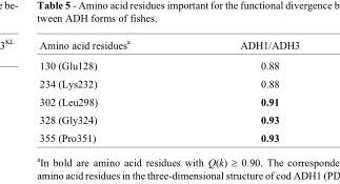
<table><thead><tr><td>Amino acid residues<sup>a</sup></td><td>ADH1/ADH3</td></tr></thead><tbody><tr><td>130 (Glu128)</td><td>0.88</td></tr><tr><td>234 (Lys232)</td><td>0.88</td></tr><tr><td>302 (Leu298)</td><td>0.91</td></tr><tr><td>328 (Gly324)</td><td>0.93</td></tr><tr><td>355 (Pro351)</td><td>0.93</td></tr></tbody></table>